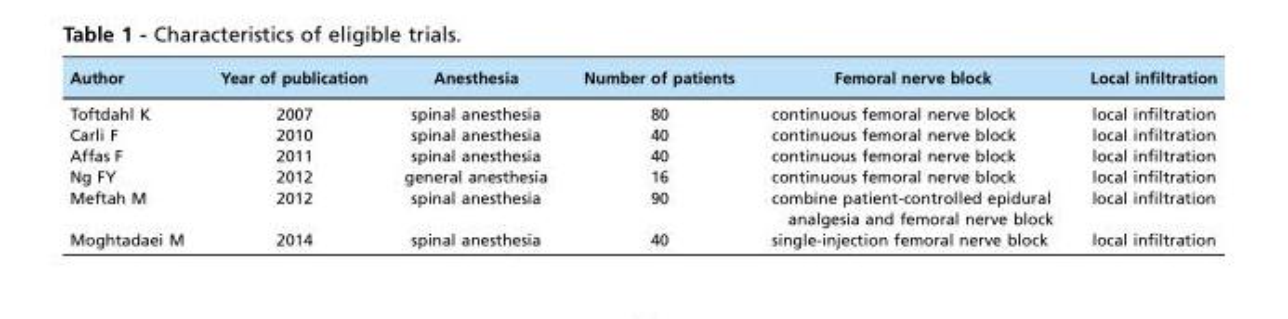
<table><thead><tr><td>Author</td><td>Year of publication</td><td>Anesthesia</td><td>Number of patients</td><td>Femoral nerve block</td><td>Local infiltration</td></tr></thead><tbody><tr><td>Toftdahl K</td><td>2007</td><td>spinal anesthesia</td><td>80</td><td>continuous femoral nerve block</td><td>local infiltration</td></tr><tr><td>Carli F</td><td>2010</td><td>spinal anesthesia</td><td>40</td><td>continuous femoral nerve block</td><td>local infiltration</td></tr><tr><td>Affas F</td><td>2011</td><td>spinal anesthesia</td><td>40</td><td>continuous femoral nerve block</td><td>local infiltration</td></tr><tr><td>Ng FY</td><td>2012</td><td>general anesthesia</td><td>16</td><td>continuous femoral nerve block</td><td>local infiltration</td></tr><tr><td>Meftah M</td><td>2012</td><td>spinal anesthesia</td><td>90</td><td>combine patient-controlled epidural analgesia and femoral nerve block</td><td>local infiltration</td></tr><tr><td>Moghtadaei M</td><td>2014</td><td>spinal anesthesia</td><td>40</td><td>single-injection femoral nerve block</td><td>local infiltration</td></tr></tbody></table>